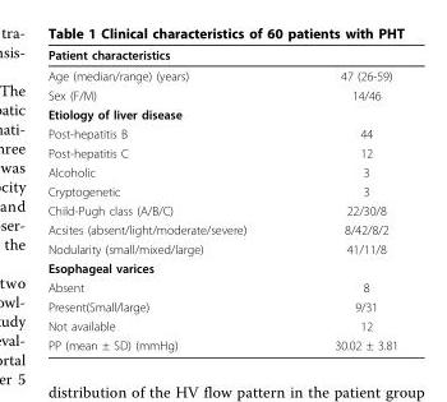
<table><thead><tr><td>Patient characteristics</td><td></td></tr></thead><tbody><tr><td>Age (median/range) (years)</td><td>47 (26-59)</td></tr><tr><td>Sex (F/M)</td><td>14/46</td></tr><tr><td colspan="2">Etiology of liver disease</td></tr><tr><td>Post-hepatitis B</td><td>44</td></tr><tr><td>Post-hepatitis C</td><td>12</td></tr><tr><td>Alcoholic</td><td>3</td></tr><tr><td>Cryptogenetic</td><td>3</td></tr><tr><td>Child-Pugh class (A/B/C)</td><td>22/30/8</td></tr><tr><td>Acsites (absent/light/moderate/severe)</td><td>8/42/8/2</td></tr><tr><td>Nodularity (small/mixed/large)</td><td>41/11/8</td></tr><tr><td colspan="2">Esophageal varices</td></tr><tr><td>Absent</td><td>8</td></tr><tr><td>Present(Small/large)</td><td>9/31</td></tr><tr><td>Not available</td><td>12</td></tr><tr><td>PP (mean ± SD) (mmHg)</td><td>30.02 ± 3.81</td></tr></tbody></table>